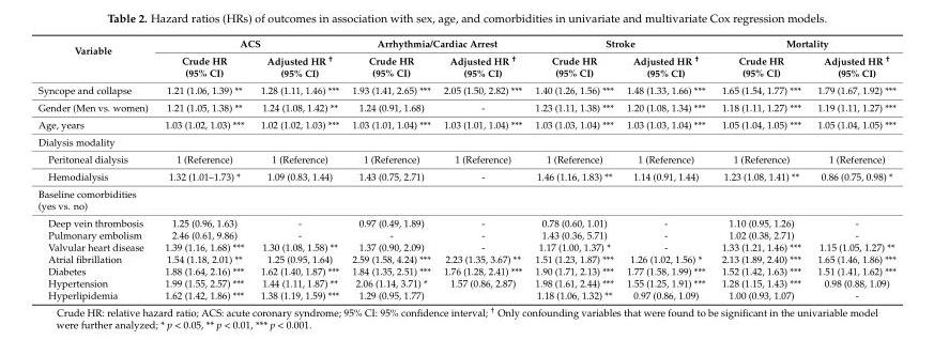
<table><thead><tr><td rowspan="2">Variable</td><td colspan="2">ACS</td><td colspan="2">Arrhythmia/Cardiac Arrest</td><td colspan="2">Stroke</td><td colspan="2">Mortality</td></tr><tr><td>Crude HR (95% CI)</td><td>Adjusted HR <sup>†</sup> (95% CI)</td><td>Crude HR (95% CI)</td><td>Adjusted HR <sup>†</sup> (95% CI)</td><td>Crude HR (95% CI)</td><td>Adjusted HR <sup>†</sup> (95% CI)</td><td>Crude HR (95% CI)</td><td>Adjusted HR <sup>†</sup> (95% CI)</td></tr></thead><tbody><tr><td>Syncope and collapse</td><td>1.21 (1.06, 1.39) **</td><td>1.28 (1.11, 1.46) ***</td><td>1.93 (1.41, 2.65) ***</td><td>2.05 (1.50, 2.82) ***</td><td>1.40 (1.26, 1.56) ***</td><td>1.48 (1.33, 1.66) ***</td><td>1.65 (1.54, 1.77) ***</td><td>1.79 (1.67, 1.92) ***</td></tr><tr><td>Gender (Men vs. women)</td><td>1.21 (1.05, 1.38) **</td><td>1.24 (1.08, 1.42) **</td><td>1.24 (0.91, 1.68)</td><td>-</td><td>1.23 (1.11, 1.38) ***</td><td>1.20 (1.08, 1.34) ***</td><td>1.18 (1.11, 1.27) ***</td><td>1.19 (1.11, 1.27) ***</td></tr><tr><td>Age, years</td><td>1.03 (1.02, 1.03) ***</td><td>1.02 (1.02, 1.03) ***</td><td>1.03 (1.01, 1.04) ***</td><td>1.03 (1.01, 1.04) ***</td><td>1.03 (1.03, 1.04) ***</td><td>1.03 (1.03, 1.04) ***</td><td>1.05 (1.04, 1.05) ***</td><td>1.05 (1.04, 1.05) ***</td></tr><tr><td colspan="9">Dialysis modality</td></tr><tr><td>Peritoneal dialysis</td><td>1 (Reference)</td><td>1 (Reference)</td><td>1 (Reference)</td><td>1 (Reference)</td><td>1 (Reference)</td><td>1 (Reference)</td><td>1 (Reference)</td><td>1 (Reference)</td></tr><tr><td>Hemodialysis</td><td>1.32 (1.01–1.73) *</td><td>1.09 (0.83, 1.44)</td><td>1.43 (0.75, 2.71)</td><td>-</td><td>1.46 (1.16, 1.83) **</td><td>1.14 (0.91, 1.44)</td><td>1.23 (1.08, 1.41) **</td><td>0.86 (0.75, 0.98) *</td></tr><tr><td colspan="9">Baseline comorbidities (yes vs. no)</td></tr><tr><td>Deep vein thrombosis</td><td>1.25 (0.96, 1.63)</td><td>-</td><td>0.97 (0.49, 1.89)</td><td>-</td><td>0.78 (0.60, 1.01)</td><td>-</td><td>1.10 (0.95, 1.26)</td><td>-</td></tr><tr><td>Pulmonary embolism</td><td>2.46 (0.61, 9.86)</td><td>-</td><td>-</td><td>-</td><td>1.43 (0.36, 5.71)</td><td>-</td><td>1.02 (0.38, 2.71)</td><td>-</td></tr><tr><td>Valvular heart disease</td><td>1.39 (1.16, 1.68) ***</td><td>1.30 (1.08, 1.58) **</td><td>1.37 (0.90, 2.09)</td><td>-</td><td>1.17 (1.00, 1.37) *</td><td>-</td><td>1.33 (1.21, 1.46) ***</td><td>1.15 (1.05, 1.27) **</td></tr><tr><td>Atrial fibrillation</td><td>1.54 (1.18, 2.01) **</td><td>1.25 (0.95, 1.64)</td><td>2.59 (1.58, 4.24) ***</td><td>2.23 (1.35, 3.67) **</td><td>1.51 (1.23, 1.87) ***</td><td>1.26 (1.02, 1.56) *</td><td>2.13 (1.89, 2.40) ***</td><td>1.65 (1.46, 1.86) ***</td></tr><tr><td>Diabetes</td><td>1.88 (1.64, 2.16) ***</td><td>1.62 (1.40, 1.87) ***</td><td>1.84 (1.35, 2.51) ***</td><td>1.76 (1.28, 2.41) ***</td><td>1.90 (1.71, 2.13) ***</td><td>1.77 (1.58, 1.99) ***</td><td>1.52 (1.42, 1.63) ***</td><td>1.51 (1.41, 1.62) ***</td></tr><tr><td>Hypertension</td><td>1.99 (1.55, 2.57) ***</td><td>1.44 (1.11, 1.87) **</td><td>2.06 (1.14, 3.71) *</td><td>1.57 (0.86, 2.87)</td><td>1.98 (1.61, 2.44) ***</td><td>1.55 (1.25, 1.91) ***</td><td>1.28 (1.15, 1.43) ***</td><td>0.98 (0.88, 1.09)</td></tr><tr><td>Hyperlipidemia</td><td>1.62 (1.42, 1.86) ***</td><td>1.38 (1.19, 1.59) ***</td><td>1.29 (0.95, 1.77)</td><td></td><td>1.18 (1.06, 1.32) **</td><td>0.97 (0.86, 1.09)</td><td>1.00 (0.93, 1.07)</td><td>-</td></tr></tbody></table>